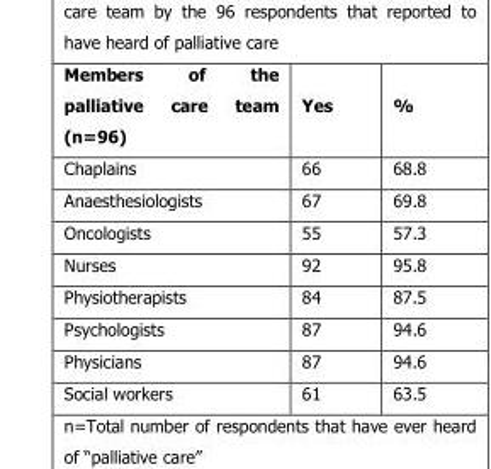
<table><thead><tr><td>Members of the palliative care team (n=96)</td><td>Yes</td><td>%</td></tr></thead><tbody><tr><td>Chaplains</td><td>66</td><td>68.8</td></tr><tr><td>Anaesthesiologists</td><td>67</td><td>69.8</td></tr><tr><td>Oncologists</td><td>55</td><td>57.3</td></tr><tr><td>Nurses</td><td>92</td><td>95.8</td></tr><tr><td>Physiotherapists</td><td>84</td><td>87.5</td></tr><tr><td>Psychologists</td><td>87</td><td>94.6</td></tr><tr><td>Physicians</td><td>87</td><td>94.6</td></tr><tr><td>Social workers</td><td>61</td><td>63.5</td></tr></tbody></table>